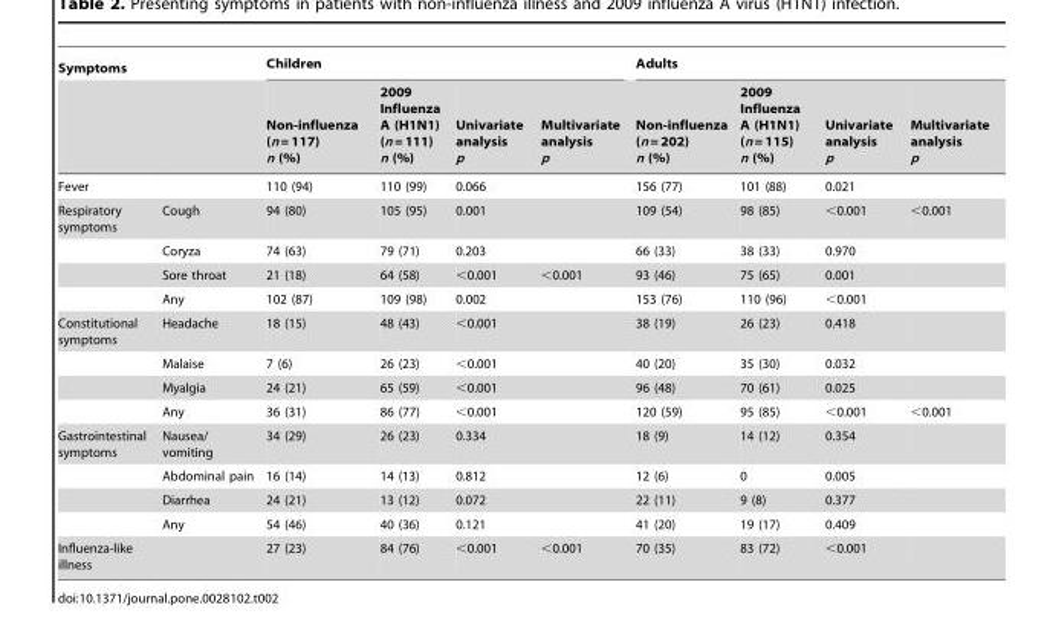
<table><thead><tr><td colspan="2">Symptoms</td><td colspan="4">Children</td><td colspan="4">Adults</td></tr><tr><td></td><td></td><td>Non-influenza (n = 117) n (%)</td><td>2009 Influenza A (H1N1) (n = 111) n (%)</td><td>Univariate analysis p</td><td>Multivariate analysis p</td><td>Non-influenza (n = 202) n (%)</td><td>2009 Influenza A (H1N1) (n = 115) n (%)</td><td>Univariate analysis p</td><td>Multivariate analysis p</td></tr></thead><tbody><tr><td>Fever</td><td></td><td>110 (94)</td><td>110 (99)</td><td>0.066</td><td></td><td>156 (77)</td><td>101 (88)</td><td>0.021</td><td></td></tr><tr><td rowspan="4">Respiratory symptoms</td><td>Cough</td><td>94 (80)</td><td>105 (95)</td><td>0.001</td><td></td><td>109 (54)</td><td>98 (85)</td><td>&lt;0.001</td><td>&lt;0.001</td></tr><tr><td>Coryza</td><td>74 (63)</td><td>79 (71)</td><td>0.203</td><td></td><td>66 (33)</td><td>38 (33)</td><td>0.970</td><td></td></tr><tr><td>Sore throat</td><td>21 (18)</td><td>64 (58)</td><td>&lt;0.001</td><td>&lt;0.001</td><td>93 (46)</td><td>75 (65)</td><td>0.001</td><td></td></tr><tr><td>Any</td><td>102 (87)</td><td>109 (98)</td><td>0.002</td><td></td><td>153 (76)</td><td>110 (96)</td><td>&lt;0.001</td><td></td></tr><tr><td rowspan="4">Constitutional symptoms</td><td>Headache</td><td>18 (15)</td><td>48 (43)</td><td>&lt;0.001</td><td></td><td>38 (19)</td><td>26 (23)</td><td>0.418</td><td></td></tr><tr><td>Malaise</td><td>7 (6)</td><td>26 (23)</td><td>&lt;0.001</td><td></td><td>40 (20)</td><td>35 (30)</td><td>0.032</td><td></td></tr><tr><td>Myalgia</td><td>24 (21)</td><td>65 (59)</td><td>&lt;0.001</td><td></td><td>96 (48)</td><td>70 (61)</td><td>0.025</td><td></td></tr><tr><td>Any</td><td>36 (31)</td><td>86 (77)</td><td>&lt;0.001</td><td></td><td>120 (59)</td><td>95 (85)</td><td>&lt;0.001</td><td>&lt;0.001</td></tr><tr><td rowspan="4">Gastrointestinal symptoms</td><td>Nausea/ vomiting</td><td>34 (29)</td><td>26 (23)</td><td>0.334</td><td></td><td>18 (9)</td><td>14 (12)</td><td>0.354</td><td></td></tr><tr><td>Abdominal pain</td><td>16 (14)</td><td>14 (13)</td><td>0.812</td><td></td><td>12 (6)</td><td>0</td><td>0.005</td><td></td></tr><tr><td>Diarrhea</td><td>24 (21)</td><td>13 (12)</td><td>0.072</td><td></td><td>22 (11)</td><td>9 (8)</td><td>0.377</td><td></td></tr><tr><td>Any</td><td>54 (46)</td><td>40 (36)</td><td>0.121</td><td></td><td>41 (20)</td><td>19 (17)</td><td>0.409</td><td></td></tr><tr><td>Influenza-like illness</td><td></td><td>27 (23)</td><td>84 (76)</td><td>&lt;0.001</td><td>&lt;0.001</td><td>70 (35)</td><td>83 (72)</td><td>&lt;0.001</td><td></td></tr></tbody></table>